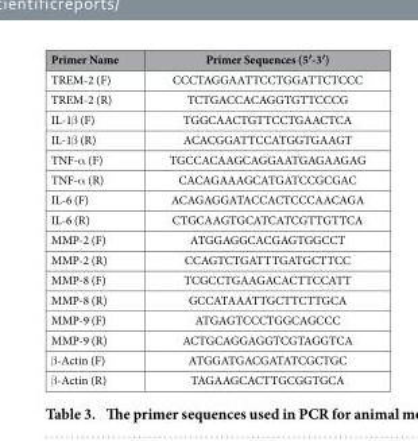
<table><thead><tr><td>Primer Name</td><td>Primer Sequences (5′-3′)</td></tr></thead><tbody><tr><td>TREM-2 (F)</td><td>CCCTAGGAATTCCTGGATTCTCCC</td></tr><tr><td>TREM-2 (R)</td><td>TCTGACCACAGGTGTTCCCG</td></tr><tr><td>IL-1β (F)</td><td>TGGCAACTGTTCCTGAACTCA</td></tr><tr><td>IL-1β (R)</td><td>ACACGGATTCCATGGTGAAGT</td></tr><tr><td>TNF-α (F)</td><td>TGCCACAAGCAGGAATGAGAAGAG</td></tr><tr><td>TNF-α (R)</td><td>CACAGAAAGCATGATCCGCGAC</td></tr><tr><td>IL-6 (F)</td><td>ACAGAGGATACCACTCCCAACAGA</td></tr><tr><td>IL-6 (R)</td><td>CTGCAAGTGCATCATCGTTGTTCA</td></tr><tr><td>MMP-2 (F)</td><td>ATGGAGGCACGAGTGGCCT</td></tr><tr><td>MMP-2 (R)</td><td>CCAGTCTGATTTGATGCTTCC</td></tr><tr><td>MMP-8 (F)</td><td>TCGCCTGAAGACACTTCCATT</td></tr><tr><td>MMP-8 (R)</td><td>GCCATAAATTGCTTCTTGCA</td></tr><tr><td>MMP-9 (F)</td><td>ATGAGTCCCTGGCAGCCC</td></tr><tr><td>MMP-9 (R)</td><td>ACTGCAGGAGGTCGTAGGTCA</td></tr><tr><td>β -Actin (F)</td><td>ATGGATGACGATATCGCTGC</td></tr><tr><td>β -Actin (R)</td><td>TAGAAGCACTTGCGGTGCA</td></tr></tbody></table>